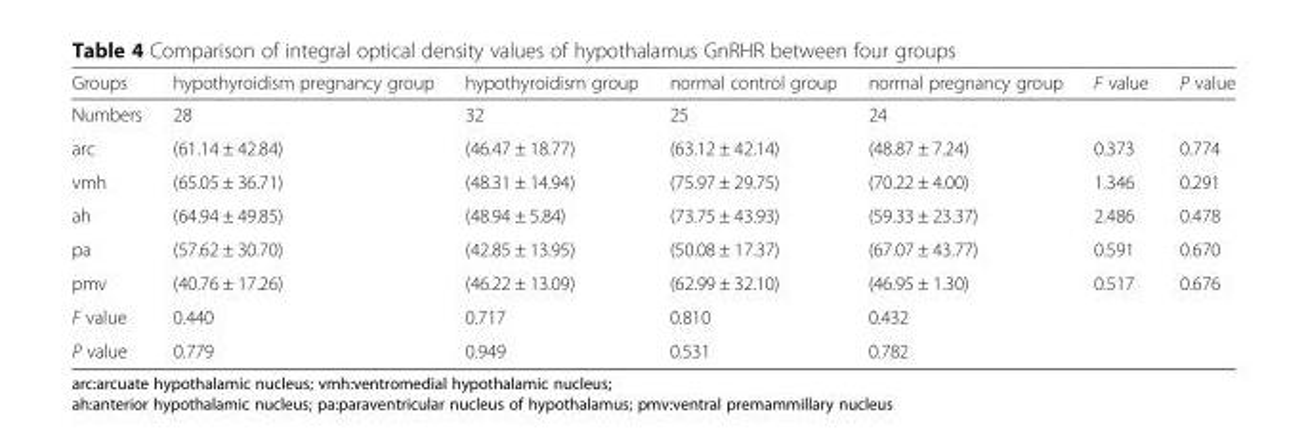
<table><thead><tr><td>Groups</td><td>hypothyroidism pregnancy group</td><td>hypothyroidism group</td><td>normal control group</td><td>normal pregnancy group</td><td>F value</td><td>P value</td></tr></thead><tbody><tr><td>Numbers</td><td>28</td><td>32</td><td>25</td><td>24</td><td></td><td></td></tr><tr><td>arc</td><td>(61.14 ± 42.84)</td><td>(46.47 ± 18.77)</td><td>(63.12 ± 42.14)</td><td>(48.87 ± 7.24)</td><td>0.373</td><td>0.774</td></tr><tr><td>vmh</td><td>(65.05 ± 36.71)</td><td>(48.31 ± 14.94)</td><td>(75.97 ± 29.75)</td><td>(70.22 ± 4.00)</td><td>1.346</td><td>0.291</td></tr><tr><td>ah</td><td>(64.94 ± 49.85)</td><td>(48.94 ± 5.84)</td><td>(73.75 ± 43.93)</td><td>(59.33 ± 23.37)</td><td>2.486</td><td>0.478</td></tr><tr><td>pa</td><td>(57.62 ± 30.70)</td><td>(42.85 ± 13.95)</td><td>(50.08 ± 17.37)</td><td>(67.07 ± 43.77)</td><td>0.591</td><td>0.670</td></tr><tr><td>pmv</td><td>(40.76 ± 17.26)</td><td>(46.22 ± 13.09)</td><td>(62.99 ± 32.10)</td><td>(46.95 ± 1.30)</td><td>0.517</td><td>0.676</td></tr><tr><td>F value</td><td>0.440</td><td>0.717</td><td>0.810</td><td>0.432</td><td></td><td></td></tr><tr><td>P value</td><td>0.779</td><td>0.949</td><td>0.531</td><td>0.782</td><td></td><td></td></tr></tbody></table>